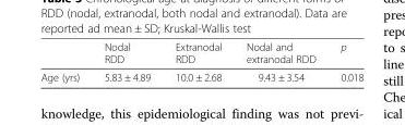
<table><thead><tr><td></td><td>Nodal RDD</td><td>Extranodal RDD</td><td>Nodal and extranodal RDD</td><td>p</td></tr></thead><tbody><tr><td>Age (yrs)</td><td>5.83 ± 4.89</td><td>10.0 ± 2.68</td><td>9.43 ± 3.54</td><td>0.018</td></tr></tbody></table>